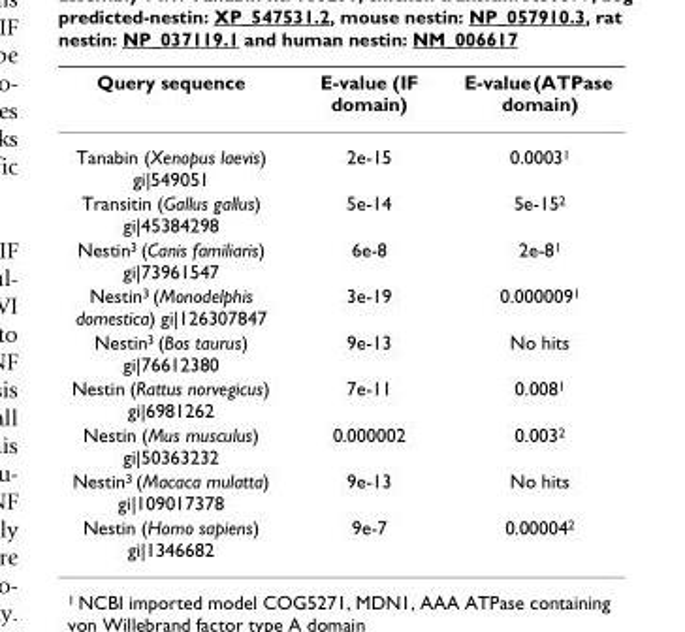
<table><thead><tr><td>Query sequence</td><td>E-value (IF domain)</td><td>E-value (ATPase domain)</td></tr></thead><tbody><tr><td>Tanabin (Xenopus laevis) gi|549051</td><td>2e-15</td><td>0.0003<sup>1</sup></td></tr><tr><td>Transitin (Gallus gallus) gi|45384298</td><td>5e-14</td><td>5e-15<sup>2</sup></td></tr><tr><td>Nestin<sup>3</sup> (Canis familiaris) gi|73961547</td><td>6e-8</td><td>2e-8<sup>1</sup></td></tr><tr><td>Nestin<sup>3</sup> (Monodelphis domestica) gi|126307847</td><td>3e-19</td><td>0.000009<sup>1</sup></td></tr><tr><td>Nestin<sup>3</sup> (Bos taurus) gi|76612380</td><td>9e-13</td><td>No hits</td></tr><tr><td>Nestin (Rattus norvegicus) gi|6981262</td><td>7e-11</td><td>0.008<sup>1</sup></td></tr><tr><td>Nestin (Mus musculus) gi|50363232</td><td>0.000002</td><td>0.003<sup>2</sup></td></tr><tr><td>Nestin<sup>3</sup> (Macaca mulatta) gi|109017378</td><td>9e-13</td><td>No hits</td></tr><tr><td>Nestin (Homo sapiens) gi|1346682</td><td>9e-7</td><td>0.00004<sup>2</sup></td></tr></tbody></table>